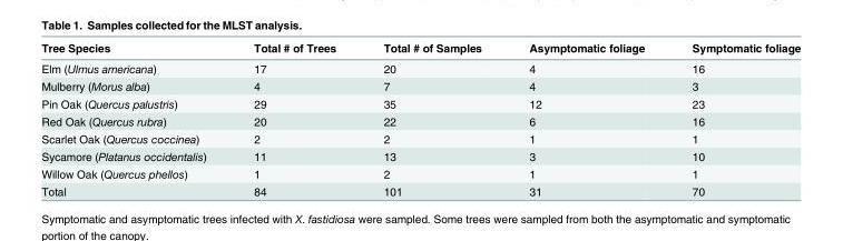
<table><thead><tr><td>Tree Species</td><td>Total # of Trees</td><td>Total # of Samples</td><td>Asymptomatic foliage</td><td>Symptomatic foliage</td></tr></thead><tbody><tr><td>Elm (Ulmus americana)</td><td>17</td><td>20</td><td>4</td><td>16</td></tr><tr><td>Mulberry (Morus alba)</td><td>4</td><td>7</td><td>4</td><td>3</td></tr><tr><td>Pin Oak (Quercus palustris)</td><td>29</td><td>35</td><td>12</td><td>23</td></tr><tr><td>Red Oak (Quercus rubra)</td><td>20</td><td>22</td><td>6</td><td>16</td></tr><tr><td>Scarlet Oak (Quercus coccinea)</td><td>2</td><td>2</td><td>1</td><td>1</td></tr><tr><td>Sycamore (Platanus occidentalis)</td><td>11</td><td>13</td><td>3</td><td>10</td></tr><tr><td>Willow Oak (Quercus phellos)</td><td>1</td><td>2</td><td>1</td><td>1</td></tr><tr><td>Total</td><td>84</td><td>101</td><td>31</td><td>70</td></tr></tbody></table>